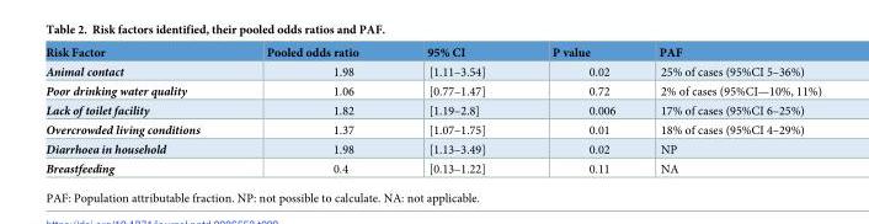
<table><thead><tr><td>Risk Factor</td><td>Pooled odds ratio</td><td>95% CI</td><td>P value</td><td>PAF</td></tr></thead><tbody><tr><td>Animal contact</td><td>1.98</td><td>[1.11–3.54]</td><td>0.02</td><td>25% of cases (95%CI 5–36%)</td></tr><tr><td>Poor drinking water quality</td><td>1.06</td><td>[0.77–1.47]</td><td>0.72</td><td>2% of cases (95%CI—10%, 11%)</td></tr><tr><td>Lack of toilet facility</td><td>1.82</td><td>[1.19–2.8]</td><td>0.006</td><td>17% of cases (95%CI 6–25%)</td></tr><tr><td>Overcrowded living conditions</td><td>1.37</td><td>[1.07–1.75]</td><td>0.01</td><td>18% of cases (95%CI 4–29%)</td></tr><tr><td>Diarrhoea in household</td><td>1.98</td><td>[1.13–3.49]</td><td>0.02</td><td>NP</td></tr><tr><td>Breastfeeding</td><td>0.4</td><td>[0.13–1.22]</td><td>0.11</td><td>NA</td></tr></tbody></table>